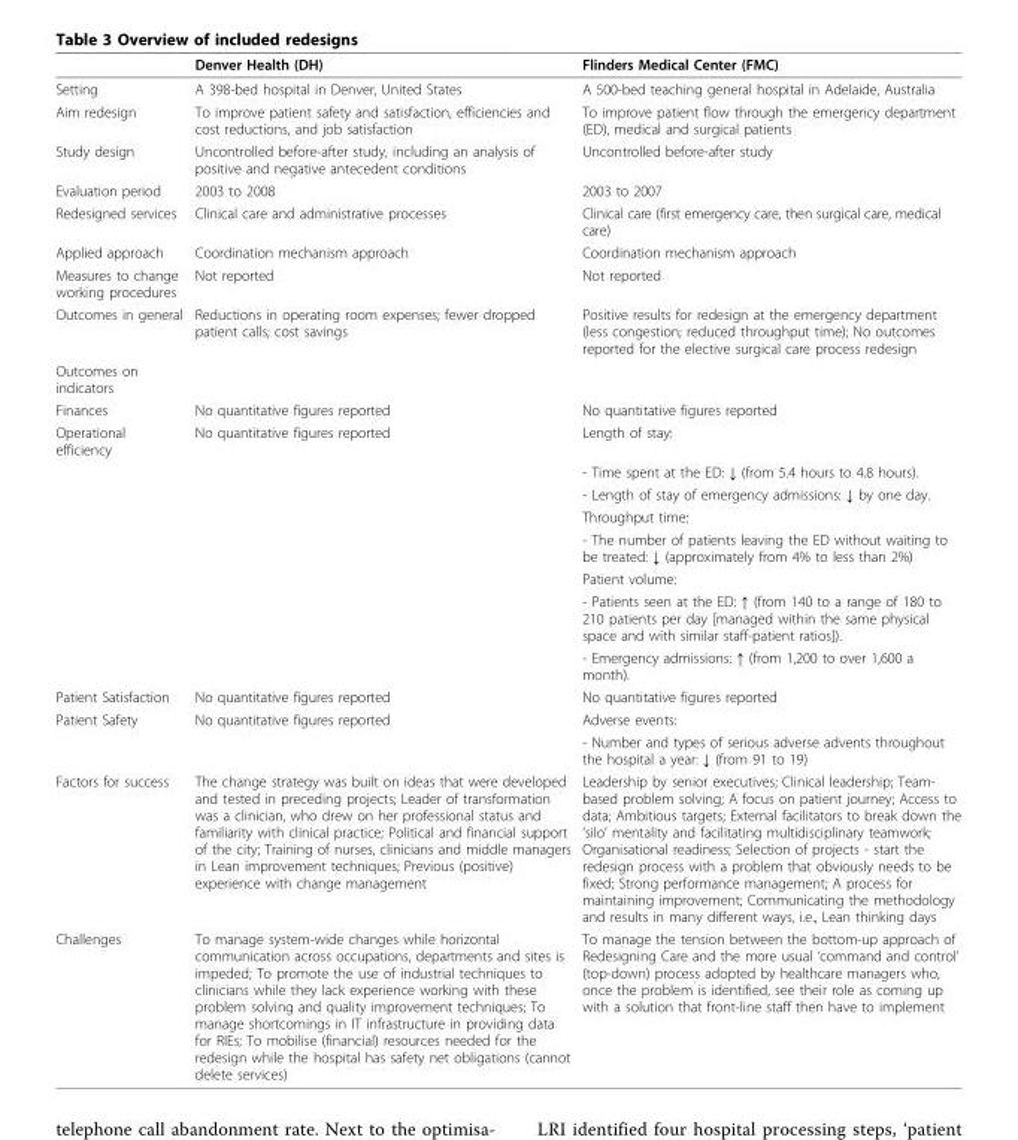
<table><thead><tr><td></td><td>Denver Health (DH)</td><td>Flinders Medical Center (FMC)</td></tr></thead><tbody><tr><td>Setting</td><td>A 398-bed hospital in Denver, United States</td><td>A 500-bed teaching general hospital in Adelaide, Australia</td></tr><tr><td>Aim redesign</td><td>To improve patient safety and satisfaction, efficiencies and cost reductions, and job satisfaction</td><td>To improve patient flow through the emergency department (ED), medical and surgical patients</td></tr><tr><td>Study design</td><td>Uncontrolled before-after study, including an analysis of positive and negative antecedent conditions</td><td>Uncontrolled before-after study</td></tr><tr><td>Evaluation period</td><td>2003 to 2008</td><td>2003 to 2007</td></tr><tr><td>Redesigned services</td><td>Clinical care and administrative processes</td><td>Clinical care (first emergency care, then surgical care, medical care)</td></tr><tr><td>Applied approach</td><td>Coordination mechanism approach</td><td>Coordination mechanism approach</td></tr><tr><td>Measures to change working procedures</td><td>Not reported</td><td>Not reported</td></tr><tr><td>Outcomes in general</td><td>Reductions in operating room expenses; fewer dropped patient calls; cost savings</td><td>Positive results for redesign at the emergency department (less congestion; reduced throughput time); No outcomes reported for the elective surgical care process redesign</td></tr><tr><td colspan="3">Outcomes on indicators</td></tr><tr><td>Finances</td><td>No quantitative figures reported</td><td>No quantitative figures reported</td></tr><tr><td rowspan="8">Operational efficiency</td><td>No quantitative figures reported</td><td>Length of stay:</td></tr><tr><td></td><td>- Time spent at the ED: ↓ (from 5.4 hours to 4.8 hours).</td></tr><tr><td></td><td>- Length of stay of emergency admissions: ↓ by one day.</td></tr><tr><td></td><td>Throughput time:</td></tr><tr><td></td><td>- The number of patients leaving the ED without waiting to be treated: ↓ (approximately from 4% to less than 2%)</td></tr><tr><td></td><td>Patient volume:</td></tr><tr><td></td><td>- Patients seen at the ED: ↑ (from 140 to a range of 180 to 210 patients per day [managed within the same physical space and with similar staff-patient ratios]).</td></tr><tr><td></td><td>- Emergency admissions: ↑ (from 1,200 to over 1,600 a month).</td></tr><tr><td>Patient Satisfaction</td><td>No quantitative figures reported</td><td>No quantitative figures reported</td></tr><tr><td rowspan="2">Patient Safety</td><td>No quantitative figures reported</td><td>Adverse events:</td></tr><tr><td></td><td>- Number and types of serious adverse advents throughout the hospital a year: ↓ (from 91 to 19)</td></tr><tr><td>Factors for success</td><td>The change strategy was built on ideas that were developed and tested in preceding projects; Leader of transformation was a clinician, who drew on her professional status and familiarity with clinical practice; Political and financial support of the city; Training of nurses, clinicians and middle managers in Lean improvement techniques; Previous (positive) experience with change management</td><td>Leadership by senior executives; Clinical leadership; Team- based problem solving; A focus on patient journey; Access to data; Ambitious targets; External facilitators to break down the ‘silo’ mentality and facilitating multidisciplinary teamwork; Organisational readiness; Selection of projects - start the redesign process with a problem that obviously needs to be fixed; Strong performance management; A process for maintaining improvement; Communicating the methodology and results in many different ways, i.e., Lean thinking days</td></tr><tr><td>Challenges</td><td>To manage system-wide changes while horizontal communication across occupations, departments and sites is impeded; To promote the use of industrial techniques to clinicians while they lack experience working with these problem solving and quality improvement techniques; To manage shortcomings in IT infrastructure in providing data for RIEs; To mobilise (financial) resources needed for the redesign while the hospital has safety net obligations (cannot delete services)</td><td>To manage the tension between the bottom-up approach of Redesigning Care and the more usual ‘command and control’ (top-down) process adopted by healthcare managers who, once the problem is identified, see their role as coming up with a solution that front-line staff then have to implement</td></tr></tbody></table>